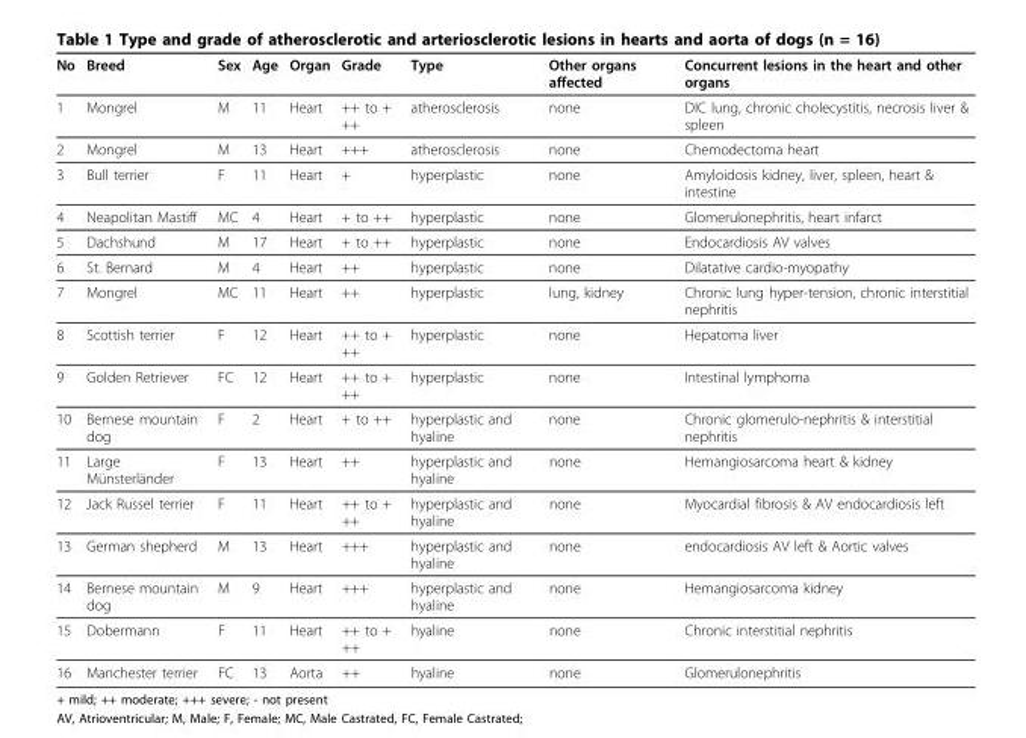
<table><thead><tr><td>No</td><td>Breed</td><td>Sex</td><td>Age</td><td>Organ</td><td>Grade</td><td>Type</td><td>Other organs affected</td><td>Concurrent lesions in the heart and other organs</td></tr></thead><tbody><tr><td>1</td><td>Mongrel</td><td>M</td><td>11</td><td>Heart</td><td>++ to + ++</td><td>atherosclerosis</td><td>none</td><td>DIC lung, chronic cholecystitis, necrosis liver &amp; spleen</td></tr><tr><td>2</td><td>Mongrel</td><td>M</td><td>13</td><td>Heart</td><td>+++</td><td>atherosclerosis</td><td>none</td><td>Chemodectoma heart</td></tr><tr><td>3</td><td>Bull terrier</td><td>F</td><td>11</td><td>Heart</td><td>+</td><td>hyperplastic</td><td>none</td><td>Amyloidosis kidney, liver, spleen, heart &amp; intestine</td></tr><tr><td>4</td><td>Neapolitan Mastiff</td><td>MC</td><td>4</td><td>Heart</td><td>+ to ++</td><td>hyperplastic</td><td>none</td><td>Glomerulonephritis, heart infarct</td></tr><tr><td>5</td><td>Dachshund</td><td>M</td><td>17</td><td>Heart</td><td>+ to ++</td><td>hyperplastic</td><td>none</td><td>Endocardiosis AV valves</td></tr><tr><td>6</td><td>St. Bernard</td><td>M</td><td>4</td><td>Heart</td><td>++</td><td>hyperplastic</td><td>none</td><td>Dilatative cardio-myopathy</td></tr><tr><td>7</td><td>Mongrel</td><td>MC</td><td>11</td><td>Heart</td><td>++</td><td>hyperplastic</td><td>lung, kidney</td><td>Chronic lung hyper-tension, chronic interstitial nephritis</td></tr><tr><td>8</td><td>Scottish terrier</td><td>F</td><td>12</td><td>Heart</td><td>++ to + ++</td><td>hyperplastic</td><td>none</td><td>Hepatoma liver</td></tr><tr><td>9</td><td>Golden Retriever</td><td>FC</td><td>12</td><td>Heart</td><td>++ to + ++</td><td>hyperplastic</td><td>none</td><td>Intestinal lymphoma</td></tr><tr><td>10</td><td>Bernese mountain dog</td><td>F</td><td>2</td><td>Heart</td><td>+ to ++</td><td>hyperplastic and hyaline</td><td>none</td><td>Chronic glomerulo-nephritis &amp; interstitial nephritis</td></tr><tr><td>11</td><td>Large Münsterländer</td><td>F</td><td>13</td><td>Heart</td><td>++</td><td>hyperplastic and hyaline</td><td>none</td><td>Hemangiosarcoma heart &amp; kidney</td></tr><tr><td>12</td><td>Jack Russel terrier</td><td>F</td><td>11</td><td>Heart</td><td>++ to + ++</td><td>hyperplastic and hyaline</td><td>none</td><td>Myocardial fibrosis &amp; AV endocardiosis left</td></tr><tr><td>13</td><td>German shepherd</td><td>M</td><td>13</td><td>Heart</td><td>+++</td><td>hyperplastic and hyaline</td><td>none</td><td>endocardiosis AV left &amp; Aortic valves</td></tr><tr><td>14</td><td>Bernese mountain dog</td><td>M</td><td>9</td><td>Heart</td><td>+++</td><td>hyperplastic and hyaline</td><td>none</td><td>Hemangiosarcoma kidney</td></tr><tr><td>15</td><td>Dobermann</td><td>F</td><td>11</td><td>Heart</td><td>++ to + ++</td><td>hyaline</td><td>none</td><td>Chronic interstitial nephritis</td></tr><tr><td>16</td><td>Manchester terrier</td><td>FC</td><td>13</td><td>Aorta</td><td>++</td><td>hyaline</td><td>none</td><td>Glomerulonephritis</td></tr></tbody></table>